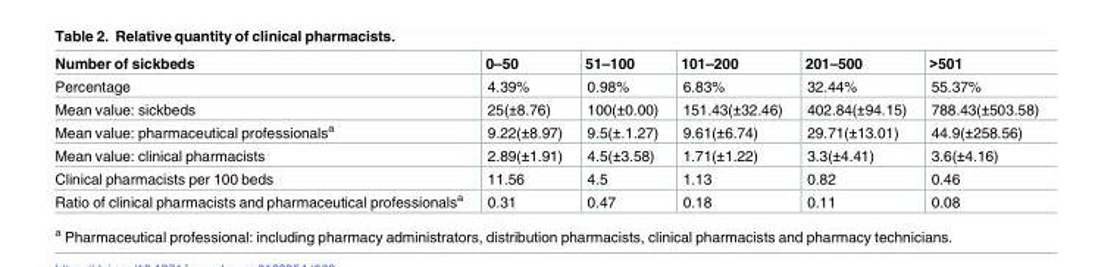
<table><thead><tr><td>Number of sickbeds</td><td>0–50</td><td>51–100</td><td>101–200</td><td>201–500</td><td>&gt;501</td></tr></thead><tbody><tr><td>Percentage</td><td>4.39%</td><td>0.98%</td><td>6.83%</td><td>32.44%</td><td>55.37%</td></tr><tr><td>Mean value: sickbeds</td><td>25(±8.76)</td><td>100(±0.00)</td><td>151.43(±32.46)</td><td>402.84(±94.15)</td><td>788.43(±503.58)</td></tr><tr><td>Mean value: pharmaceutical professionals<sup>a</sup></td><td>9.22(±8.97)</td><td>9.5(±.1.27)</td><td>9.61(±6.74)</td><td>29.71(±13.01)</td><td>44.9(±258.56)</td></tr><tr><td>Mean value: clinical pharmacists</td><td>2.89(±1.91)</td><td>4.5(±3.58)</td><td>1.71(±1.22)</td><td>3.3(±4.41)</td><td>3.6(±4.16)</td></tr><tr><td>Clinical pharmacists per 100 beds</td><td>11.56</td><td>4.5</td><td>1.13</td><td>0.82</td><td>0.46</td></tr><tr><td>Ratio of clinical pharmacists and pharmaceutical professionals<sup>a</sup></td><td>0.31</td><td>0.47</td><td>0.18</td><td>0.11</td><td>0.08</td></tr></tbody></table>